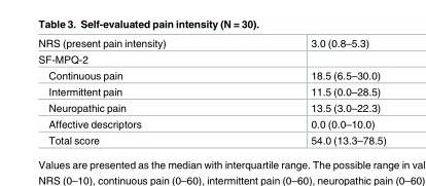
<table><tbody><tr><td>NRS (present pain intensity)</td><td>3.0 (0.8–5.3)</td></tr><tr><td colspan="2">SF-MPQ-2</td></tr><tr><td>Continuous pain</td><td>18.5 (6.5–30.0)</td></tr><tr><td>Intermittent pain</td><td>11.5 (0.0–28.5)</td></tr><tr><td>Neuropathic pain</td><td>13.5 (3.0–22.3)</td></tr><tr><td>Affective descriptors</td><td>0.0 (0.0–10.0)</td></tr><tr><td>Total score</td><td>54.0 (13.3–78.5)</td></tr></tbody></table>